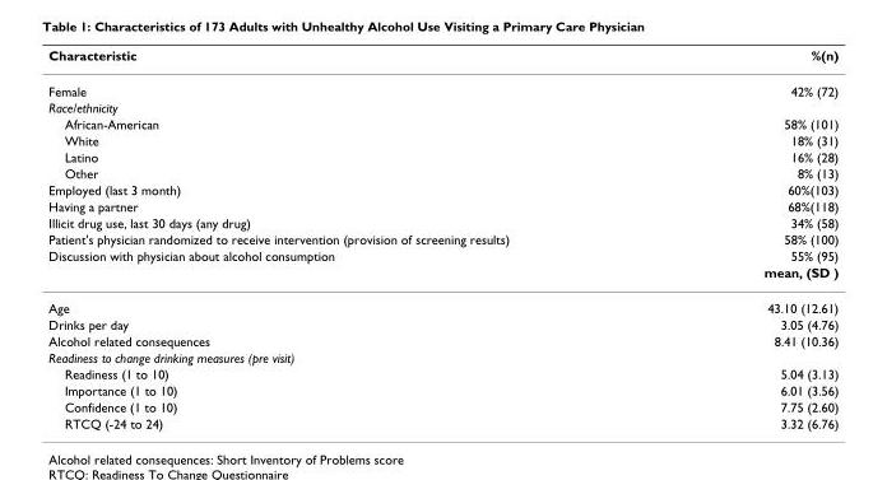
<table><thead><tr><td>Characteristic</td><td>%(n)</td></tr></thead><tbody><tr><td>Female</td><td>42% (72)</td></tr><tr><td colspan="2">Race/ethnicity</td></tr><tr><td>African-American</td><td>58% (101)</td></tr><tr><td>White</td><td>18% (31)</td></tr><tr><td>Latino</td><td>16% (28)</td></tr><tr><td>Other</td><td>8% (13)</td></tr><tr><td>Employed (last 3 month)</td><td>60%(103)</td></tr><tr><td>Having a partner</td><td>68%(118)</td></tr><tr><td>Illicit drug use, last 30 days (any drug)</td><td>34% (58)</td></tr><tr><td>Patient&#x27;s physician randomized to receive intervention (provision of screening results)</td><td>58% (100)</td></tr><tr><td rowspan="2">Discussion with physician about alcohol consumption</td><td>55% (95)</td></tr><tr><td>mean, (SD )</td></tr><tr><td>Age</td><td>43.10 (12.61)</td></tr><tr><td>Drinks per day</td><td>3.05 (4.76)</td></tr><tr><td>Alcohol related consequences</td><td>8.41 (10.36)</td></tr><tr><td colspan="2">Readiness to change drinking measures (pre visit)</td></tr><tr><td>Readiness (1 to 10)</td><td>5.04 (3.13)</td></tr><tr><td>Importance (1 to 10)</td><td>6.01 (3.56)</td></tr><tr><td>Confidence (1 to 10)</td><td>7.75 (2.60)</td></tr><tr><td>RTCQ (-24 to 24)</td><td>3.32 (6.76)</td></tr></tbody></table>